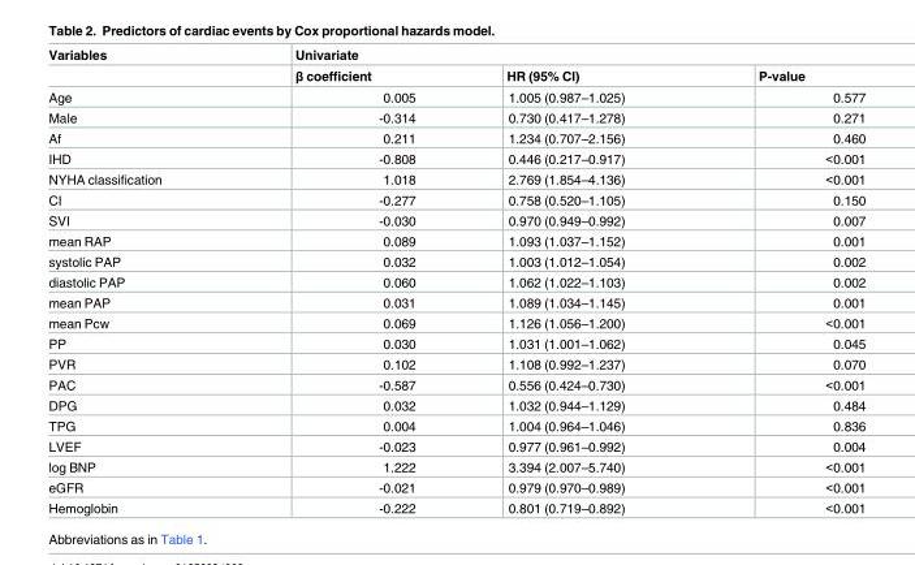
<table><thead><tr><td rowspan="2">Variables</td><td colspan="3">Univariate</td></tr><tr><td>β coefficient</td><td>HR (95% CI)</td><td>P-value</td></tr></thead><tbody><tr><td>Age</td><td>0.005</td><td>1.005 (0.987–1.025)</td><td>0.577</td></tr><tr><td>Male</td><td>-0.314</td><td>0.730 (0.417–1.278)</td><td>0.271</td></tr><tr><td>Af</td><td>0.211</td><td>1.234 (0.707–2.156)</td><td>0.460</td></tr><tr><td>IHD</td><td>-0.808</td><td>0.446 (0.217–0.917)</td><td>&lt;0.001</td></tr><tr><td>NYHA classification</td><td>1.018</td><td>2.769 (1.854–4.136)</td><td>&lt;0.001</td></tr><tr><td>CI</td><td>-0.277</td><td>0.758 (0.520–1.105)</td><td>0.150</td></tr><tr><td>SVI</td><td>-0.030</td><td>0.970 (0.949–0.992)</td><td>0.007</td></tr><tr><td>mean RAP</td><td>0.089</td><td>1.093 (1.037–1.152)</td><td>0.001</td></tr><tr><td>systolic PAP</td><td>0.032</td><td>1.003 (1.012–1.054)</td><td>0.002</td></tr><tr><td>diastolic PAP</td><td>0.060</td><td>1.062 (1.022–1.103)</td><td>0.002</td></tr><tr><td>mean PAP</td><td>0.031</td><td>1.089 (1.034–1.145)</td><td>0.001</td></tr><tr><td>mean Pcw</td><td>0.069</td><td>1.126 (1.056–1.200)</td><td>&lt;0.001</td></tr><tr><td>PP</td><td>0.030</td><td>1.031 (1.001–1.062)</td><td>0.045</td></tr><tr><td>PVR</td><td>0.102</td><td>1.108 (0.992–1.237)</td><td>0.070</td></tr><tr><td>PAC</td><td>-0.587</td><td>0.556 (0.424–0.730)</td><td>&lt;0.001</td></tr><tr><td>DPG</td><td>0.032</td><td>1.032 (0.944–1.129)</td><td>0.484</td></tr><tr><td>TPG</td><td>0.004</td><td>1.004 (0.964–1.046)</td><td>0.836</td></tr><tr><td>LVEF</td><td>-0.023</td><td>0.977 (0.961–0.992)</td><td>0.004</td></tr><tr><td>log BNP</td><td>1.222</td><td>3.394 (2.007–5.740)</td><td>&lt;0.001</td></tr><tr><td>eGFR</td><td>-0.021</td><td>0.979 (0.970–0.989)</td><td>&lt;0.001</td></tr><tr><td>Hemoglobin</td><td>-0.222</td><td>0.801 (0.719–0.892)</td><td>&lt;0.001</td></tr></tbody></table>